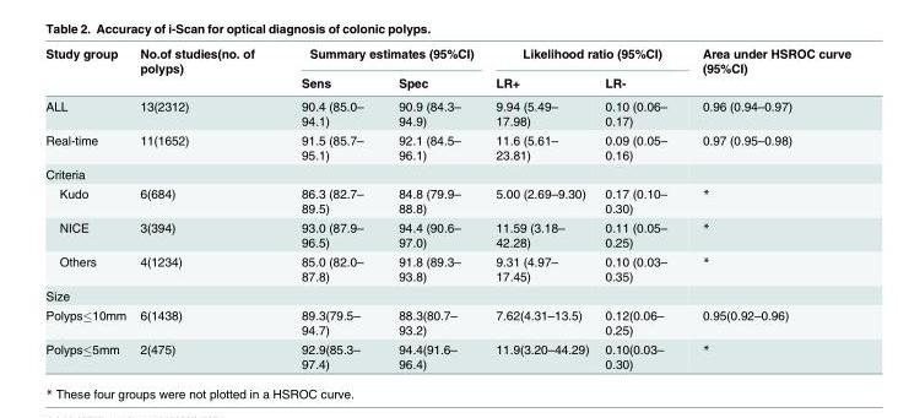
<table><thead><tr><td rowspan="2">Study group</td><td rowspan="2">No.of studies(no. of polyps)</td><td colspan="2">Summary estimates (95%CI)</td><td colspan="2">Likelihood ratio (95%CI)</td><td rowspan="2">Area under HSROC curve (95%CI)</td></tr><tr><td>Sens</td><td>Spec</td><td>LR+</td><td>LR-</td></tr></thead><tbody><tr><td>ALL</td><td>13(2312)</td><td>90.4 (85.0– 94.1)</td><td>90.9 (84.3– 94.9)</td><td>9.94 (5.49– 17.98)</td><td>0.10 (0.06– 0.17)</td><td>0.96 (0.94–0.97)</td></tr><tr><td>Real-time</td><td>11(1652)</td><td>91.5 (85.7– 95.1)</td><td>92.1 (84.5– 96.1)</td><td>11.6 (5.61– 23.81)</td><td>0.09 (0.05– 0.16)</td><td>0.97 (0.95–0.98)</td></tr><tr><td colspan="7">Criteria</td></tr><tr><td>Kudo</td><td>6(684)</td><td>86.3 (82.7– 89.5)</td><td>84.8 (79.9– 88.8)</td><td>5.00 (2.69–9.30)</td><td>0.17 (0.10– 0.30)</td><td>*</td></tr><tr><td>NICE</td><td>3(394)</td><td>93.0 (87.9– 96.5)</td><td>94.4 (90.6– 97.0)</td><td>11.59 (3.18– 42.28)</td><td>0.11 (0.05– 0.25)</td><td>*</td></tr><tr><td>Others</td><td>4(1234)</td><td>85.0 (82.0– 87.8)</td><td>91.8 (89.3– 93.8)</td><td>9.31 (4.97– 17.45)</td><td>0.10 (0.03– 0.35)</td><td>*</td></tr><tr><td colspan="7">Size</td></tr><tr><td>Polyps≤10mm</td><td>6(1438)</td><td>89.3(79.5– 94.7)</td><td>88.3(80.7– 93.2)</td><td>7.62(4.31–13.5)</td><td>0.12(0.06– 0.25)</td><td>0.95(0.92–0.96)</td></tr><tr><td>Polyps≤5mm</td><td>2(475)</td><td>92.9(85.3– 97.4)</td><td>94.4(91.6– 96.4)</td><td>11.9(3.20–44.29)</td><td>0.10(0.03– 0.30)</td><td>*</td></tr></tbody></table>